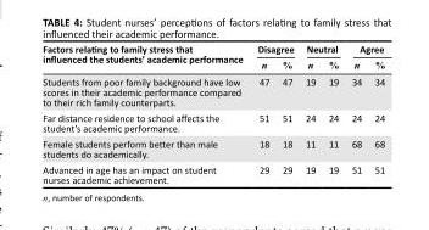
<table><thead><tr><td rowspan="2">Factors relating to family stress that influenced the students’ academic performance</td><td colspan="2">Disagree</td><td colspan="2">Neutral</td><td colspan="2">Agree</td></tr><tr><td>n</td><td>%</td><td>n</td><td>%</td><td>n</td><td>%</td></tr></thead><tbody><tr><td>Students from poor family background have low scores in their academic performance compared to their rich family counterparts.</td><td>47</td><td>47</td><td>19</td><td>19</td><td>34</td><td>34</td></tr><tr><td>Far distance residence to school affects the student’s academic performance.</td><td>51</td><td>51</td><td>24</td><td>24</td><td>24</td><td>24</td></tr><tr><td>Female students perform better than male students do academically.</td><td>18</td><td>18</td><td>11</td><td>11</td><td>68</td><td>68</td></tr><tr><td>Advanced in age has an impact on student nurses academic achievement.</td><td>29</td><td>29</td><td>19</td><td>19</td><td>51</td><td>51</td></tr></tbody></table>